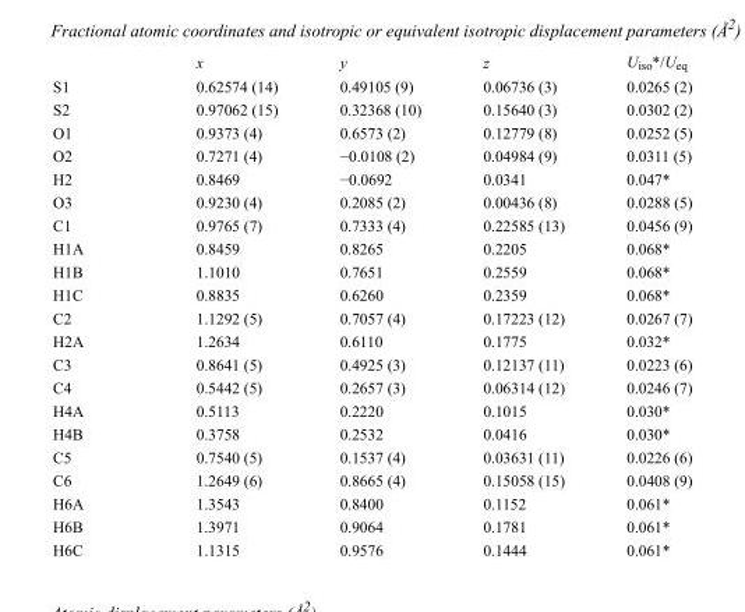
<table><thead><tr><td></td><td>x</td><td>y</td><td>z</td><td>U<sub>iso</sub>*/U<sub>eq</sub></td></tr></thead><tbody><tr><td>S1</td><td>0.62574 (14)</td><td>0.49105 (9)</td><td>0.06736 (3)</td><td>0.0265 (2)</td></tr><tr><td>S2</td><td>0.97062 (15)</td><td>0.32368 (10)</td><td>0.15640 (3)</td><td>0.0302 (2)</td></tr><tr><td>O1</td><td>0.9373 (4)</td><td>0.6573 (2)</td><td>0.12779 (8)</td><td>0.0252 (5)</td></tr><tr><td>O2</td><td>0.7271 (4)</td><td>−0.0108 (2)</td><td>0.04984 (9)</td><td>0.0311 (5)</td></tr><tr><td>H2</td><td>0.8469</td><td>−0.0692</td><td>0.0341</td><td>0.047*</td></tr><tr><td>O3</td><td>0.9230 (4)</td><td>0.2085 (2)</td><td>0.00436 (8)</td><td>0.0288 (5)</td></tr><tr><td>C1</td><td>0.9765 (7)</td><td>0.7333 (4)</td><td>0.22585 (13)</td><td>0.0456 (9)</td></tr><tr><td>H1A</td><td>0.8459</td><td>0.8265</td><td>0.2205</td><td>0.068*</td></tr><tr><td>H1B</td><td>1.1010</td><td>0.7651</td><td>0.2559</td><td>0.068*</td></tr><tr><td>H1C</td><td>0.8835</td><td>0.6260</td><td>0.2359</td><td>0.068*</td></tr><tr><td>C2</td><td>1.1292 (5)</td><td>0.7057 (4)</td><td>0.17223 (12)</td><td>0.0267 (7)</td></tr><tr><td>H2A</td><td>1.2634</td><td>0.6110</td><td>0.1775</td><td>0.032*</td></tr><tr><td>C3</td><td>0.8641 (5)</td><td>0.4925 (3)</td><td>0.12137 (11)</td><td>0.0223 (6)</td></tr><tr><td>C4</td><td>0.5442 (5)</td><td>0.2657 (3)</td><td>0.06314 (12)</td><td>0.0246 (7)</td></tr><tr><td>H4A</td><td>0.5113</td><td>0.2220</td><td>0.1015</td><td>0.030*</td></tr><tr><td>H4B</td><td>0.3758</td><td>0.2532</td><td>0.0416</td><td>0.030*</td></tr><tr><td>C5</td><td>0.7540 (5)</td><td>0.1537 (4)</td><td>0.03631 (11)</td><td>0.0226 (6)</td></tr><tr><td>C6</td><td>1.2649 (6)</td><td>0.8665 (4)</td><td>0.15058 (15)</td><td>0.0408 (9)</td></tr><tr><td>H6A</td><td>1.3543</td><td>0.8400</td><td>0.1152</td><td>0.061*</td></tr><tr><td>H6B</td><td>1.3971</td><td>0.9064</td><td>0.1781</td><td>0.061*</td></tr><tr><td>H6C</td><td>1.1315</td><td>0.9576</td><td>0.1444</td><td>0.061*</td></tr></tbody></table>